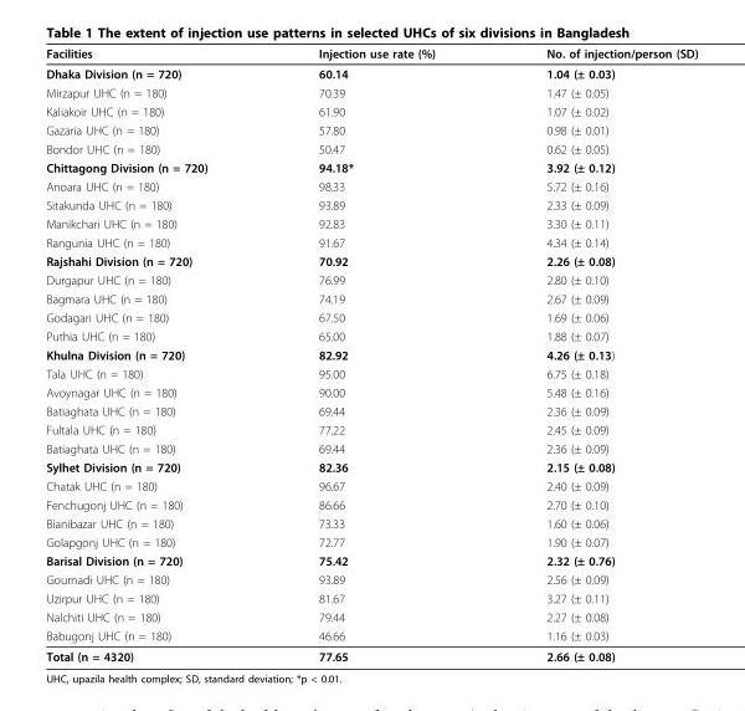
<table><thead><tr><td>Facilities</td><td>Injection use rate (%)</td><td>No. of injection/person (SD)</td></tr></thead><tbody><tr><td>Dhaka Division (n = 720)</td><td>60.14</td><td>1.04 (± 0.03)</td></tr><tr><td>Mirzapur UHC (n = 180)</td><td>70.39</td><td>1.47 (± 0.05)</td></tr><tr><td>Kaliakoir UHC (n = 180)</td><td>61.90</td><td>1.07 (± 0.02)</td></tr><tr><td>Gazaria UHC (n = 180)</td><td>57.80</td><td>0.98 (± 0.01)</td></tr><tr><td>Bondor UHC (n = 180)</td><td>50.47</td><td>0.62 (± 0.05)</td></tr><tr><td>Chittagong Division (n = 720)</td><td>94.18*</td><td>3.92 (± 0.12)</td></tr><tr><td>Anoara UHC (n = 180)</td><td>98.33</td><td>5.72 (± 0.16)</td></tr><tr><td>Sitakunda UHC (n = 180)</td><td>93.89</td><td>2.33 (± 0.09)</td></tr><tr><td>Manikchari UHC (n = 180)</td><td>92.83</td><td>3.30 (± 0.11)</td></tr><tr><td>Rangunia UHC (n = 180)</td><td>91.67</td><td>4.34 (± 0.14)</td></tr><tr><td>Rajshahi Division (n = 720)</td><td>70.92</td><td>2.26 (± 0.08)</td></tr><tr><td>Durgapur UHC (n = 180)</td><td>76.99</td><td>2.80 (± 0.10)</td></tr><tr><td>Bagmara UHC (n = 180)</td><td>74.19</td><td>2.67 (± 0.09)</td></tr><tr><td>Godagari UHC (n = 180)</td><td>67.50</td><td>1.69 (± 0.06)</td></tr><tr><td>Puthia UHC (n = 180)</td><td>65.00</td><td>1.88 (± 0.07)</td></tr><tr><td>Khulna Division (n = 720)</td><td>82.92</td><td>4.26 (± 0.13)</td></tr><tr><td>Tala UHC (n = 180)</td><td>95.00</td><td>6.75 (± 0.18)</td></tr><tr><td>Avoynagar UHC (n = 180)</td><td>90.00</td><td>5.48 (± 0.16)</td></tr><tr><td>Batiaghata UHC (n = 180)</td><td>69.44</td><td>2.36 (± 0.09)</td></tr><tr><td>Fultala UHC (n = 180)</td><td>77.22</td><td>2.45 (± 0.09)</td></tr><tr><td>Batiaghata UHC (n = 180)</td><td>69.44</td><td>2.36 (± 0.09)</td></tr><tr><td>Sylhet Division (n = 720)</td><td>82.36</td><td>2.15 (± 0.08)</td></tr><tr><td>Chatak UHC (n = 180)</td><td>96.67</td><td>2.40 (± 0.09)</td></tr><tr><td>Fenchugonj UHC (n = 180)</td><td>86.66</td><td>2.70 (± 0.10)</td></tr><tr><td>Bianibazar UHC (n = 180)</td><td>73.33</td><td>1.60 (± 0.06)</td></tr><tr><td>Golapgonj UHC (n = 180)</td><td>72.77</td><td>1.90 (± 0.07)</td></tr><tr><td>Barisal Division (n = 720)</td><td>75.42</td><td>2.32 (± 0.76)</td></tr><tr><td>Gournadi UHC (n = 180)</td><td>93.89</td><td>2.56 (± 0.09)</td></tr><tr><td>Uzirpur UHC (n = 180)</td><td>81.67</td><td>3.27 (± 0.11)</td></tr><tr><td>Nalchiti UHC (n = 180)</td><td>79.44</td><td>2.27 (± 0.08)</td></tr><tr><td>Babugonj UHC (n = 180)</td><td>46.66</td><td>1.16 (± 0.03)</td></tr><tr><td>Total (n = 4320)</td><td>77.65</td><td>2.66 (± 0.08)</td></tr></tbody></table>